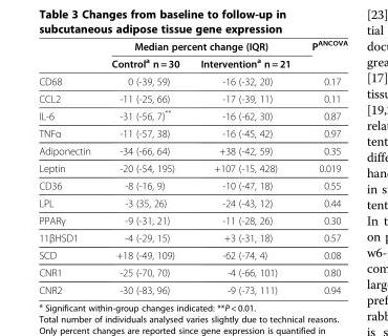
<table><thead><tr><td rowspan="2"></td><td colspan="2">Median percent change (IQR)</td><td rowspan="2">P<sup>ANCOVA</sup></td></tr><tr><td>Control<sup>a</sup> n = 30</td><td>Intervention<sup>a</sup> n = 21</td></tr></thead><tbody><tr><td>CD68</td><td>0 (-39, 59)</td><td>-16 (-32, 20)</td><td>0.17</td></tr><tr><td>CCL2</td><td>-11 (-25, 66)</td><td>-17 (-39, 11)</td><td>0.11</td></tr><tr><td>IL-6</td><td>-31 (-56, 7)**</td><td>-16 (-62, 30)</td><td>0.87</td></tr><tr><td>TNFα</td><td>-11 (-57, 38)</td><td>-16 (-45, 42)</td><td>0.97</td></tr><tr><td>Adiponectin</td><td>-34 (-66, 64)</td><td>+38 (-42, 59)</td><td>0.35</td></tr><tr><td>Leptin</td><td>-20 (-54, 195)</td><td>+107 (-15, 428)</td><td>0.019</td></tr><tr><td>CD36</td><td>-8 (-16, 9)</td><td>-10 (-47, 18)</td><td>0.55</td></tr><tr><td>LPL</td><td>-3 (35, 26)</td><td>-24 (-43, 12)</td><td>0.44</td></tr><tr><td>PPARγ</td><td>-9 (-31, 21)</td><td>-11 (-28, 26)</td><td>0.30</td></tr><tr><td>11βHSD1</td><td>-4 (-29, 15)</td><td>+3 (-31, 18)</td><td>0.57</td></tr><tr><td>SCD</td><td>+18 (-49, 109)</td><td>-62 (-74, 4)</td><td>0.08</td></tr><tr><td>CNR1</td><td>-25 (-70, 70)</td><td>-4 (-66, 101)</td><td>0.80</td></tr><tr><td>CNR2</td><td>-30 (-83, 96)</td><td>-9 (-73, 111)</td><td>0.94</td></tr></tbody></table>